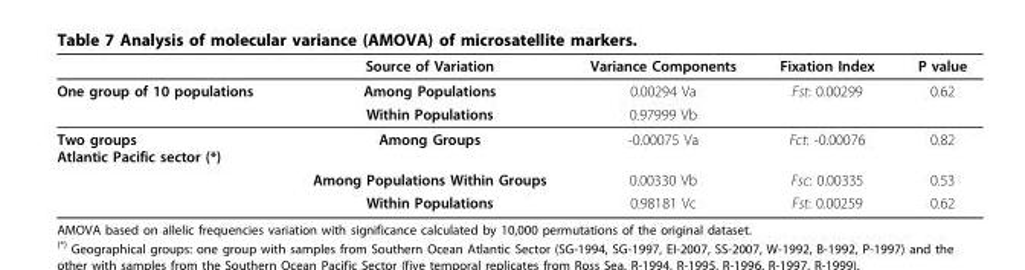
<table><thead><tr><td></td><td>Source of Variation</td><td>Variance Components</td><td>Fixation Index</td><td>P value</td></tr></thead><tbody><tr><td rowspan="2">One group of 10 populations</td><td>Among Populations</td><td>0.00294 Va</td><td>Fst: 0.00299</td><td>0.62</td></tr><tr><td>Within Populations</td><td>0.97999 Vb</td><td></td><td></td></tr><tr><td rowspan="3">Two groups Atlantic Pacific sector (*)</td><td>Among Groups</td><td>-0.00075 Va</td><td>Fct: -0.00076</td><td>0.82</td></tr><tr><td>Among Populations Within Groups</td><td>0.00330 Vb</td><td>Fsc: 0.00335</td><td>0.53</td></tr><tr><td>Within Populations</td><td>0.98181 Vc</td><td>Fst: 0.00259</td><td>0.62</td></tr></tbody></table>